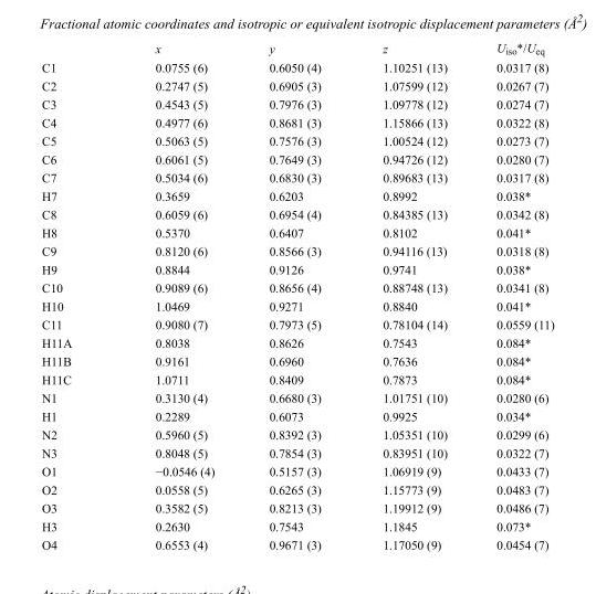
<table><thead><tr><td></td><td>x</td><td>y</td><td>z</td><td>U<sub>iso</sub>*/U<sub>eq</sub></td></tr></thead><tbody><tr><td>C1</td><td>0.0755 (6)</td><td>0.6050 (4)</td><td>1.10251 (13)</td><td>0.0317 (8)</td></tr><tr><td>C2</td><td>0.2747 (5)</td><td>0.6905 (3)</td><td>1.07599 (12)</td><td>0.0267 (7)</td></tr><tr><td>C3</td><td>0.4543 (5)</td><td>0.7976 (3)</td><td>1.09778 (12)</td><td>0.0274 (7)</td></tr><tr><td>C4</td><td>0.4977 (6)</td><td>0.8681 (3)</td><td>1.15866 (13)</td><td>0.0322 (8)</td></tr><tr><td>C5</td><td>0.5063 (5)</td><td>0.7576 (3)</td><td>1.00524 (12)</td><td>0.0273 (7)</td></tr><tr><td>C6</td><td>0.6061 (5)</td><td>0.7649 (3)</td><td>0.94726 (12)</td><td>0.0280 (7)</td></tr><tr><td>C7</td><td>0.5034 (6)</td><td>0.6830 (3)</td><td>0.89683 (13)</td><td>0.0317 (8)</td></tr><tr><td>H7</td><td>0.3659</td><td>0.6203</td><td>0.8992</td><td>0.038*</td></tr><tr><td>C8</td><td>0.6059 (6)</td><td>0.6954 (4)</td><td>0.84385 (13)</td><td>0.0342 (8)</td></tr><tr><td>H8</td><td>0.5370</td><td>0.6407</td><td>0.8102</td><td>0.041*</td></tr><tr><td>C9</td><td>0.8120 (6)</td><td>0.8566 (3)</td><td>0.94116 (13)</td><td>0.0318 (8)</td></tr><tr><td>H9</td><td>0.8844</td><td>0.9126</td><td>0.9741</td><td>0.038*</td></tr><tr><td>C10</td><td>0.9089 (6)</td><td>0.8656 (4)</td><td>0.88748 (13)</td><td>0.0341 (8)</td></tr><tr><td>H10</td><td>1.0469</td><td>0.9271</td><td>0.8840</td><td>0.041*</td></tr><tr><td>C11</td><td>0.9080 (7)</td><td>0.7973 (5)</td><td>0.78104 (14)</td><td>0.0559 (11)</td></tr><tr><td>H11A</td><td>0.8038</td><td>0.8626</td><td>0.7543</td><td>0.084*</td></tr><tr><td>H11B</td><td>0.9161</td><td>0.6960</td><td>0.7636</td><td>0.084*</td></tr><tr><td>H11C</td><td>1.0711</td><td>0.8409</td><td>0.7873</td><td>0.084*</td></tr><tr><td>N1</td><td>0.3130 (4)</td><td>0.6680 (3)</td><td>1.01751 (10)</td><td>0.0280 (6)</td></tr><tr><td>H1</td><td>0.2289</td><td>0.6073</td><td>0.9925</td><td>0.034*</td></tr><tr><td>N2</td><td>0.5960 (5)</td><td>0.8392 (3)</td><td>1.05351 (10)</td><td>0.0299 (6)</td></tr><tr><td>N3</td><td>0.8048 (5)</td><td>0.7854 (3)</td><td>0.83951 (10)</td><td>0.0322 (7)</td></tr><tr><td>O1</td><td>−0.0546 (4)</td><td>0.5157 (3)</td><td>1.06919 (9)</td><td>0.0433 (7)</td></tr><tr><td>O2</td><td>0.0558 (5)</td><td>0.6265 (3)</td><td>1.15773 (9)</td><td>0.0483 (7)</td></tr><tr><td>O3</td><td>0.3582 (5)</td><td>0.8213 (3)</td><td>1.19912 (9)</td><td>0.0486 (7)</td></tr><tr><td>H3</td><td>0.2630</td><td>0.7543</td><td>1.1845</td><td>0.073*</td></tr><tr><td>O4</td><td>0.6553 (4)</td><td>0.9671 (3)</td><td>1.17050 (9)</td><td>0.0454 (7)</td></tr></tbody></table>